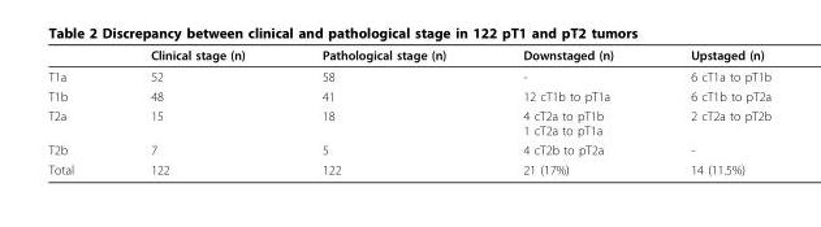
<table><thead><tr><td></td><td>Clinical stage (n)</td><td>Pathological stage (n)</td><td>Downstaged (n)</td><td>Upstaged (n)</td></tr></thead><tbody><tr><td>T1a</td><td>52</td><td>58</td><td>-</td><td>6 cT1a to pT1b</td></tr><tr><td>T1b</td><td>48</td><td>41</td><td>12 cT1b to pT1a</td><td>6 cT1b to pT2a</td></tr><tr><td>T2a</td><td>15</td><td>18</td><td>4 cT2a to pT1b 1 cT2a to pT1a</td><td>2 cT2a to pT2b</td></tr><tr><td>T2b</td><td>7</td><td>5</td><td>4 cT2b to pT2a</td><td>-</td></tr><tr><td>Total</td><td>122</td><td>122</td><td>21 (17%)</td><td>14 (11.5%)</td></tr></tbody></table>